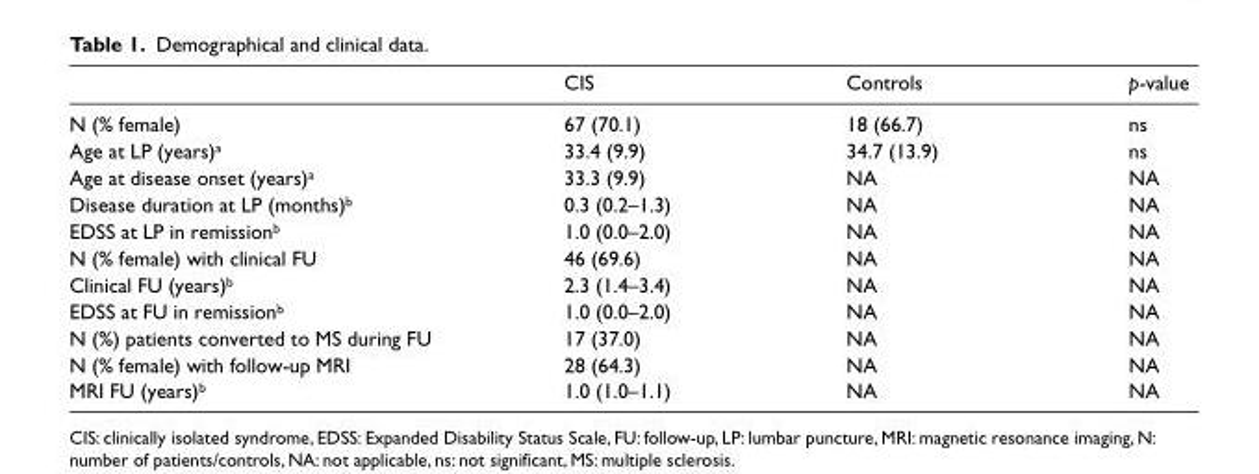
<table><thead><tr><td></td><td>CIS</td><td>Controls</td><td>p-value</td></tr></thead><tbody><tr><td>N (% female)</td><td>67 (70.1)</td><td>18 (66.7)</td><td>ns</td></tr><tr><td>Age at LP (years)<sup>a</sup></td><td>33.4 (9.9)</td><td>34.7 (13.9)</td><td>ns</td></tr><tr><td>Age at disease onset (years)<sup>a</sup></td><td>33.3 (9.9)</td><td>NA</td><td>NA</td></tr><tr><td>Disease duration at LP (months)<sup>b</sup></td><td>0.3 (0.2–1.3)</td><td>NA</td><td>NA</td></tr><tr><td>EDSS at LP in remission<sup>b</sup></td><td>1.0 (0.0–2.0)</td><td>NA</td><td>NA</td></tr><tr><td>N (% female) with clinical FU</td><td>46 (69.6)</td><td>NA</td><td>NA</td></tr><tr><td>Clinical FU (years)<sup>b</sup></td><td>2.3 (1.4–3.4)</td><td>NA</td><td>NA</td></tr><tr><td>EDSS at FU in remission<sup>b</sup></td><td>1.0 (0.0–2.0)</td><td>NA</td><td>NA</td></tr><tr><td>N (%) patients converted to MS during FU</td><td>17 (37.0)</td><td>NA</td><td>NA</td></tr><tr><td>N (% female) with follow-up MRI</td><td>28 (64.3)</td><td>NA</td><td>NA</td></tr><tr><td>MRI FU (years)<sup>b</sup></td><td>1.0 (1.0–1.1)</td><td>NA</td><td>NA</td></tr></tbody></table>